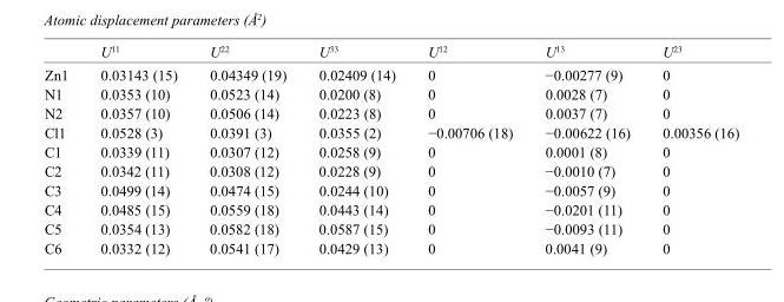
<table><thead><tr><td></td><td>U<sup>11</sup></td><td>U<sup>22</sup></td><td>U<sup>33</sup></td><td>U<sup>12</sup></td><td>U<sup>13</sup></td><td>U<sup>23</sup></td></tr></thead><tbody><tr><td>Zn1</td><td>0.03143 (15)</td><td>0.04349 (19)</td><td>0.02409 (14)</td><td>0</td><td>−0.00277 (9)</td><td>0</td></tr><tr><td>N1</td><td>0.0353 (10)</td><td>0.0523 (14)</td><td>0.0200 (8)</td><td>0</td><td>0.0028 (7)</td><td>0</td></tr><tr><td>N2</td><td>0.0357 (10)</td><td>0.0506 (14)</td><td>0.0223 (8)</td><td>0</td><td>0.0037 (7)</td><td>0</td></tr><tr><td>Cl1</td><td>0.0528 (3)</td><td>0.0391 (3)</td><td>0.0355 (2)</td><td>−0.00706 (18)</td><td>−0.00622 (16)</td><td>0.00356 (16)</td></tr><tr><td>C1</td><td>0.0339 (11)</td><td>0.0307 (12)</td><td>0.0258 (9)</td><td>0</td><td>0.0001 (8)</td><td>0</td></tr><tr><td>C2</td><td>0.0342 (11)</td><td>0.0308 (12)</td><td>0.0228 (9)</td><td>0</td><td>−0.0010 (7)</td><td>0</td></tr><tr><td>C3</td><td>0.0499 (14)</td><td>0.0474 (15)</td><td>0.0244 (10)</td><td>0</td><td>−0.0057 (9)</td><td>0</td></tr><tr><td>C4</td><td>0.0485 (15)</td><td>0.0559 (18)</td><td>0.0443 (14)</td><td>0</td><td>−0.0201 (11)</td><td>0</td></tr><tr><td>C5</td><td>0.0354 (13)</td><td>0.0582 (18)</td><td>0.0587 (15)</td><td>0</td><td>−0.0093 (11)</td><td>0</td></tr><tr><td>C6</td><td>0.0332 (12)</td><td>0.0541 (17)</td><td>0.0429 (13)</td><td>0</td><td>0.0041 (9)</td><td>0</td></tr></tbody></table>